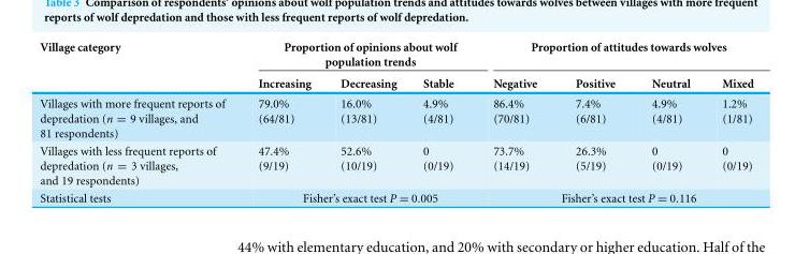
<table><thead><tr><td rowspan="2">Village category</td><td colspan="3">Proportion of opinions about wolf population trends</td><td colspan="4">Proportion of attitudes towards wolves</td></tr><tr><td>Increasing</td><td>Decreasing</td><td>Stable</td><td>Negative</td><td>Positive</td><td>Neutral</td><td>Mixed</td></tr></thead><tbody><tr><td>Villages with more frequent reports of depredation (n = 9 villages, and 81 respondents)</td><td>79.0% (64/81)</td><td>16.0% (13/81)</td><td>4.9% (4/81)</td><td>86.4% (70/81)</td><td>7.4% (6/81)</td><td>4.9% (4/81)</td><td>1.2% (1/81)</td></tr><tr><td>Villages with less frequent reports of depredation (n = 3 villages, and 19 respondents)</td><td>47.4% (9/19)</td><td>52.6% (10/19)</td><td>0 (0/19)</td><td>73.7% (14/19)</td><td>26.3% (5/19)</td><td>0 (0/19)</td><td>0 (0/19)</td></tr><tr><td>Statistical tests</td><td colspan="3">Fisher’s exact test P = 0.005</td><td colspan="4">Fisher’s exact test P = 0.116</td></tr></tbody></table>